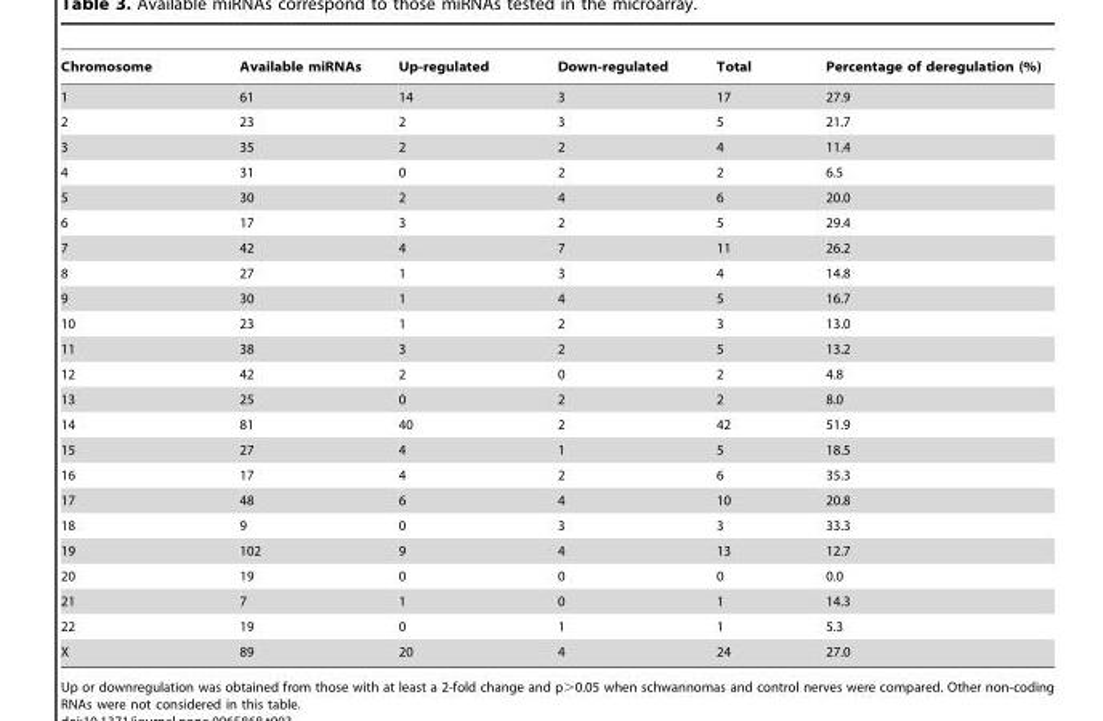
<table><thead><tr><td>Chromosome</td><td>Available miRNAs</td><td>Up-regulated</td><td>Down-regulated</td><td>Total</td><td>Percentage of deregulation (%)</td></tr></thead><tbody><tr><td>1</td><td>61</td><td>14</td><td>3</td><td>17</td><td>27.9</td></tr><tr><td>2</td><td>23</td><td>2</td><td>3</td><td>5</td><td>21.7</td></tr><tr><td>3</td><td>35</td><td>2</td><td>2</td><td>4</td><td>11.4</td></tr><tr><td>4</td><td>31</td><td>0</td><td>2</td><td>2</td><td>6.5</td></tr><tr><td>5</td><td>30</td><td>2</td><td>4</td><td>6</td><td>20.0</td></tr><tr><td>6</td><td>17</td><td>3</td><td>2</td><td>5</td><td>29.4</td></tr><tr><td>7</td><td>42</td><td>4</td><td>7</td><td>11</td><td>26.2</td></tr><tr><td>8</td><td>27</td><td>1</td><td>3</td><td>4</td><td>14.8</td></tr><tr><td>9</td><td>30</td><td>1</td><td>4</td><td>5</td><td>16.7</td></tr><tr><td>10</td><td>23</td><td>1</td><td>2</td><td>3</td><td>13.0</td></tr><tr><td>11</td><td>38</td><td>3</td><td>2</td><td>5</td><td>13.2</td></tr><tr><td>12</td><td>42</td><td>2</td><td>0</td><td>2</td><td>4.8</td></tr><tr><td>13</td><td>25</td><td>0</td><td>2</td><td>2</td><td>8.0</td></tr><tr><td>14</td><td>81</td><td>40</td><td>2</td><td>42</td><td>51.9</td></tr><tr><td>15</td><td>27</td><td>4</td><td>1</td><td>5</td><td>18.5</td></tr><tr><td>16</td><td>17</td><td>4</td><td>2</td><td>6</td><td>35.3</td></tr><tr><td>17</td><td>48</td><td>6</td><td>4</td><td>10</td><td>20.8</td></tr><tr><td>18</td><td>9</td><td>0</td><td>3</td><td>3</td><td>33.3</td></tr><tr><td>19</td><td>102</td><td>9</td><td>4</td><td>13</td><td>12.7</td></tr><tr><td>20</td><td>19</td><td>0</td><td>0</td><td>0</td><td>0.0</td></tr><tr><td>21</td><td>7</td><td>1</td><td>0</td><td>1</td><td>14.3</td></tr><tr><td>22</td><td>19</td><td>0</td><td>1</td><td>1</td><td>5.3</td></tr><tr><td>X</td><td>89</td><td>20</td><td>4</td><td>24</td><td>27.0</td></tr></tbody></table>